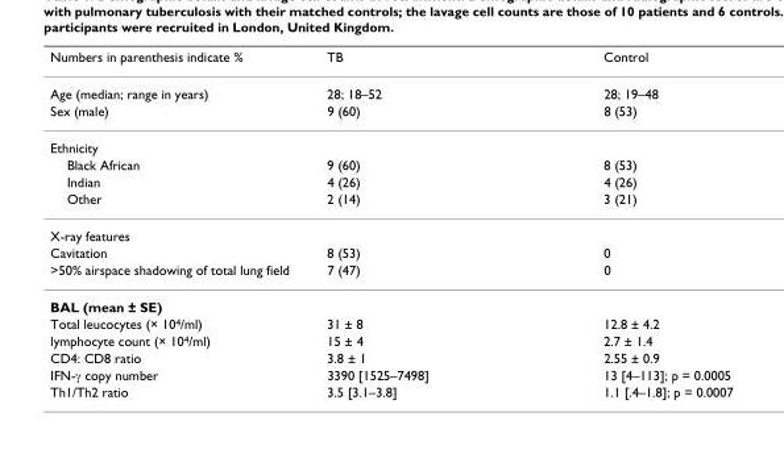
<table><thead><tr><td>Numbers in parenthesis indicate %</td><td>TB</td><td>Control</td></tr></thead><tbody><tr><td>Age (median; range in years)</td><td>28; 18–52</td><td>28; 19–48</td></tr><tr><td>Sex (male)</td><td>9 (60)</td><td>8 (53)</td></tr><tr><td colspan="3">Ethnicity</td></tr><tr><td>Black African</td><td>9 (60)</td><td>8 (53)</td></tr><tr><td>Indian</td><td>4 (26)</td><td>4 (26)</td></tr><tr><td>Other</td><td>2 (14)</td><td>3 (21)</td></tr><tr><td colspan="3">X-ray features</td></tr><tr><td>Cavitation</td><td>8 (53)</td><td>0</td></tr><tr><td>&gt;50% airspace shadowing of total lung field</td><td>7 (47)</td><td>0</td></tr><tr><td colspan="3">BAL (mean ± SE)</td></tr><tr><td>Total leucocytes (× 10<sup>4</sup>/ml)</td><td>31 ± 8</td><td>12.8 ± 4.2</td></tr><tr><td>lymphocyte count (× 10<sup>4</sup>/ml)</td><td>15 ± 4</td><td>2.7 ± 1.4</td></tr><tr><td>CD4: CD8 ratio</td><td>3.8 ± 1</td><td>2.55 ± 0.9</td></tr><tr><td>IFN-γ copy number</td><td>3390 [1525–7498]</td><td>13 [4–113]; p = 0.0005</td></tr><tr><td>Th1/Th2 ratio</td><td>3.5 [3.1–3.8]</td><td>1.1 [.4–1.8]; p = 0.0007</td></tr></tbody></table>